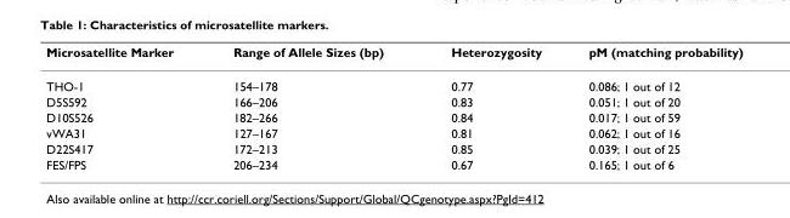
<table><thead><tr><td>Microsatellite Marker</td><td>Range of Allele Sizes (bp)</td><td>Heterozygosity</td><td>pM (matching probability)</td></tr></thead><tbody><tr><td>THO-1</td><td>154–178</td><td>0.77</td><td>0.086; 1 out of 12</td></tr><tr><td>D5S592</td><td>166–206</td><td>0.83</td><td>0.051; 1 out of 20</td></tr><tr><td>D10S526</td><td>182–266</td><td>0.84</td><td>0.017; 1 out of 59</td></tr><tr><td>vWA31</td><td>127–167</td><td>0.81</td><td>0.062; 1 out of 16</td></tr><tr><td>D22S417</td><td>172–213</td><td>0.85</td><td>0.039; 1 out of 25</td></tr><tr><td>FES/FPS</td><td>206–234</td><td>0.67</td><td>0.165; 1 out of 6</td></tr></tbody></table>